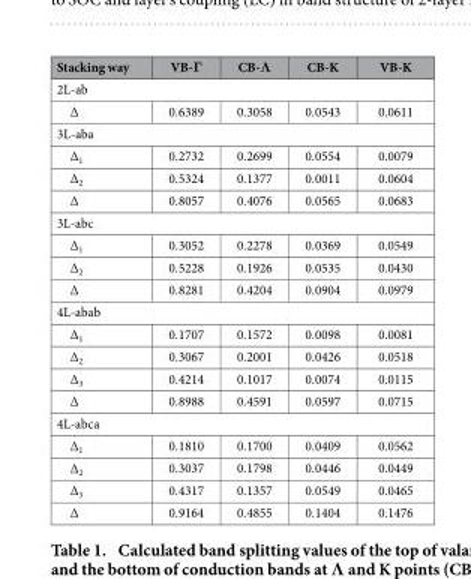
<table><thead><tr><td>Stacking way</td><td>VB-Γ</td><td>CB-Λ</td><td>CB-K</td><td>VB-K</td></tr></thead><tbody><tr><td colspan="5">2L-ab</td></tr><tr><td>Δ</td><td>0.6389</td><td>0.3058</td><td>0.0543</td><td>0.0611</td></tr><tr><td colspan="5">3L-aba</td></tr><tr><td>Δ<sub>1</sub></td><td>0.2732</td><td>0.2699</td><td>0.0554</td><td>0.0079</td></tr><tr><td>Δ<sub>2</sub></td><td>0.5324</td><td>0.1377</td><td>0.0011</td><td>0.0604</td></tr><tr><td>Δ</td><td>0.8057</td><td>0.4076</td><td>0.0565</td><td>0.0683</td></tr><tr><td colspan="5">3L-abc</td></tr><tr><td>Δ<sub>1</sub></td><td>0.3052</td><td>0.2278</td><td>0.0369</td><td>0.0549</td></tr><tr><td>Δ<sub>2</sub></td><td>0.5228</td><td>0.1926</td><td>0.0535</td><td>0.0430</td></tr><tr><td>Δ</td><td>0.8281</td><td>0.4204</td><td>0.0904</td><td>0.0979</td></tr><tr><td colspan="5">4L-abab</td></tr><tr><td>Δ<sub>1</sub></td><td>0.1707</td><td>0.1572</td><td>0.0098</td><td>0.0081</td></tr><tr><td>Δ<sub>2</sub></td><td>0.3067</td><td>0.2001</td><td>0.0426</td><td>0.0518</td></tr><tr><td>Δ<sub>3</sub></td><td>0.4214</td><td>0.1017</td><td>0.0074</td><td>0.0115</td></tr><tr><td>Δ</td><td>0.8988</td><td>0.4591</td><td>0.0597</td><td>0.0715</td></tr><tr><td colspan="5">4L-abca</td></tr><tr><td>Δ<sub>1</sub></td><td>0.1810</td><td>0.1700</td><td>0.0409</td><td>0.0562</td></tr><tr><td>Δ<sub>2</sub></td><td>0.3037</td><td>0.1798</td><td>0.0446</td><td>0.0449</td></tr><tr><td>Δ<sub>3</sub></td><td>0.4317</td><td>0.1357</td><td>0.0549</td><td>0.0465</td></tr><tr><td>Δ</td><td>0.9164</td><td>0.4855</td><td>0.1404</td><td>0.1476</td></tr></tbody></table>